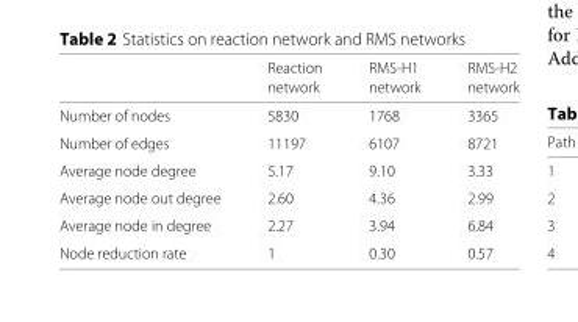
<table><thead><tr><td rowspan="2"></td><td rowspan="2">Reaction network</td><td rowspan="2">RMS-H1 network</td><td rowspan="2">RMS-H2 network</td></tr><tr></tr></thead><tbody><tr><td>Number of nodes</td><td>5830</td><td>1768</td><td>3365</td></tr><tr><td>Number of edges</td><td>11197</td><td>6107</td><td>8721</td></tr><tr><td>Average node degree</td><td>5.17</td><td>9.10</td><td>3.33</td></tr><tr><td>Average node out degree</td><td>2.60</td><td>4.36</td><td>2.99</td></tr><tr><td>Average node in degree</td><td>2.27</td><td>3.94</td><td>6.84</td></tr><tr><td>Node reduction rate</td><td>1</td><td>0.30</td><td>0.57</td></tr></tbody></table>